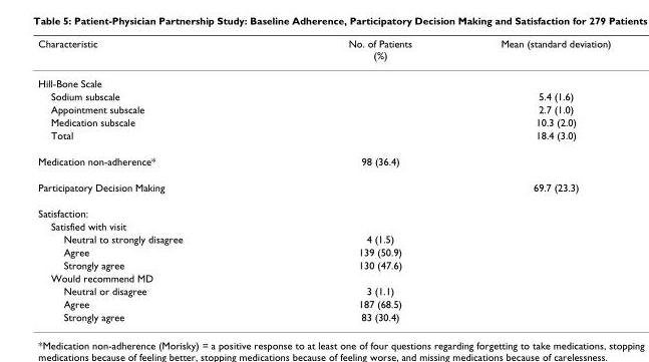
<table><thead><tr><td>Characteristic</td><td>No. of Patients (%)</td><td>Mean (standard deviation)</td></tr></thead><tbody><tr><td colspan="3">Hill-Bone Scale</td></tr><tr><td>Sodium subscale</td><td></td><td>5.4 (1.6)</td></tr><tr><td>Appointment subscale</td><td></td><td>2.7 (1.0)</td></tr><tr><td>Medication subscale</td><td></td><td>10.3 (2.0)</td></tr><tr><td>Total</td><td></td><td>18.4 (3.0)</td></tr><tr><td>Medication non-adherence*</td><td>98 (36.4)</td><td></td></tr><tr><td>Participatory Decision Making</td><td></td><td>69.7 (23.3)</td></tr><tr><td colspan="3">Satisfaction:</td></tr><tr><td colspan="3">Satisfied with visit</td></tr><tr><td>Neutral to strongly disagree</td><td>4 (1.5)</td><td></td></tr><tr><td>Agree</td><td>139 (50.9)</td><td></td></tr><tr><td>Strongly agree</td><td>130 (47.6)</td><td></td></tr><tr><td colspan="3">Would recommend MD</td></tr><tr><td>Neutral or disagree</td><td>3 (1.1)</td><td></td></tr><tr><td>Agree</td><td>187 (68.5)</td><td></td></tr><tr><td>Strongly agree</td><td>83 (30.4)</td><td></td></tr></tbody></table>